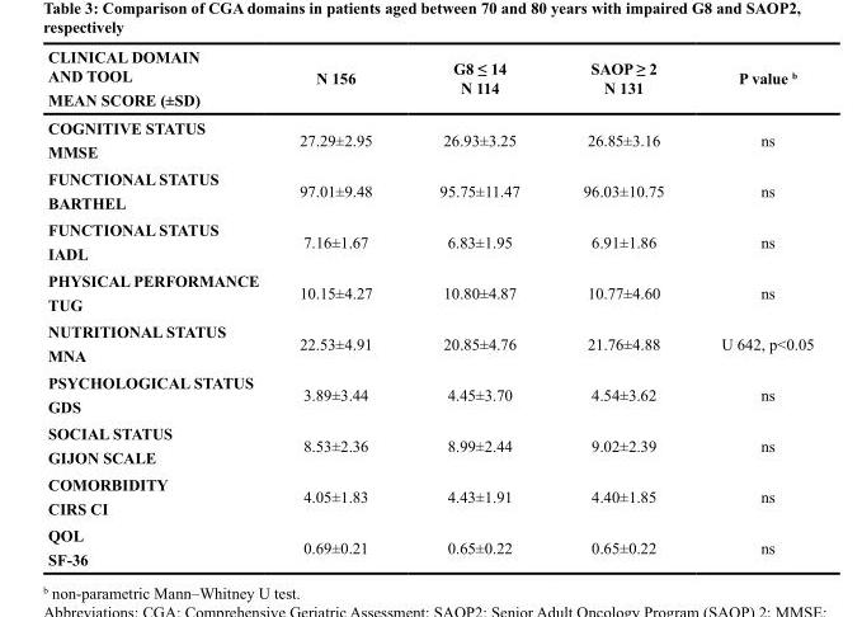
<table><thead><tr><td>CLINICAL DOMAIN AND TOOL MEAN SCORE (±SD)</td><td>N 156</td><td>G8 ≤ 14 N 114</td><td>SAOP ≥ 2 N 131</td><td>P value <sup>b</sup></td></tr></thead><tbody><tr><td>COGNITIVE STATUS MMSE</td><td>27.29±2.95</td><td>26.93±3.25</td><td>26.85±3.16</td><td>ns</td></tr><tr><td>FUNCTIONAL STATUS BARTHEL</td><td>97.01±9.48</td><td>95.75±11.47</td><td>96.03±10.75</td><td>ns</td></tr><tr><td>FUNCTIONAL STATUS IADL</td><td>7.16±1.67</td><td>6.83±1.95</td><td>6.91±1.86</td><td>ns</td></tr><tr><td>PHYSICAL PERFORMANCE TUG</td><td>10.15±4.27</td><td>10.80±4.87</td><td>10.77±4.60</td><td>ns</td></tr><tr><td>NUTRITIONAL STATUS MNA</td><td>22.53±4.91</td><td>20.85±4.76</td><td>21.76±4.88</td><td>U 642, p&lt;0.05</td></tr><tr><td>PSYCHOLOGICAL STATUS GDS</td><td>3.89±3.44</td><td>4.45±3.70</td><td>4.54±3.62</td><td>ns</td></tr><tr><td>SOCIAL STATUS GIJON SCALE</td><td>8.53±2.36</td><td>8.99±2.44</td><td>9.02±2.39</td><td>ns</td></tr><tr><td>COMORBIDITY CIRS CI</td><td>4.05±1.83</td><td>4.43±1.91</td><td>4.40±1.85</td><td>ns</td></tr><tr><td>QOL SF-36</td><td>0.69±0.21</td><td>0.65±0.22</td><td>0.65±0.22</td><td>ns</td></tr></tbody></table>